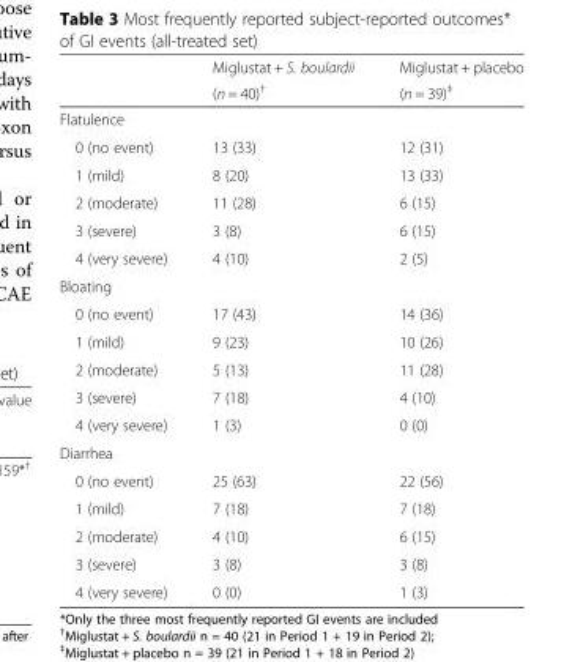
<table><thead><tr><td rowspan="2"></td><td rowspan="2">Miglustat + S. boulardii (n = 40)<sup>†</sup></td><td rowspan="2">Miglustat + placebo (n = 39)<sup>‡</sup></td></tr><tr></tr></thead><tbody><tr><td colspan="3">Flatulence</td></tr><tr><td>0 (no event)</td><td>13 (33)</td><td>12 (31)</td></tr><tr><td>1 (mild)</td><td>8 (20)</td><td>13 (33)</td></tr><tr><td>2 (moderate)</td><td>11 (28)</td><td>6 (15)</td></tr><tr><td>3 (severe)</td><td>3 (8)</td><td>6 (15)</td></tr><tr><td>4 (very severe)</td><td>4 (10)</td><td>2 (5)</td></tr><tr><td colspan="3">Bloating</td></tr><tr><td>0 (no event)</td><td>17 (43)</td><td>14 (36)</td></tr><tr><td>1 (mild)</td><td>9 (23)</td><td>10 (26)</td></tr><tr><td>2 (moderate)</td><td>5 (13)</td><td>11 (28)</td></tr><tr><td>3 (severe)</td><td>7 (18)</td><td>4 (10)</td></tr><tr><td>4 (very severe)</td><td>1 (3)</td><td>0 (0)</td></tr><tr><td colspan="3">Diarrhea</td></tr><tr><td>0 (no event)</td><td>25 (63)</td><td>22 (56)</td></tr><tr><td>1 (mild)</td><td>7 (18)</td><td>7 (18)</td></tr><tr><td>2 (moderate)</td><td>4 (10)</td><td>6 (15)</td></tr><tr><td>3 (severe)</td><td>3 (8)</td><td>3 (8)</td></tr><tr><td>4 (very severe)</td><td>0 (0)</td><td>1 (3)</td></tr></tbody></table>